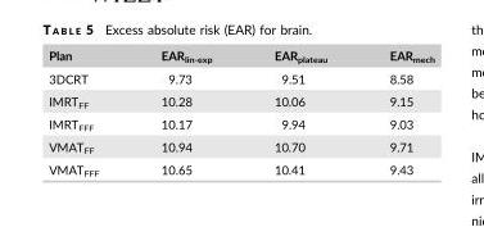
<table><thead><tr><td>Plan</td><td>EAR<sub>lin-exp</sub></td><td>EAR<sub>plateau</sub></td><td>EAR<sub>mech</sub></td></tr></thead><tbody><tr><td>3DCRT</td><td>9.73</td><td>9.51</td><td>8.58</td></tr><tr><td>IMRT<sub>FF</sub></td><td>10.28</td><td>10.06</td><td>9.15</td></tr><tr><td>IMRT<sub>FFF</sub></td><td>10.17</td><td>9.94</td><td>9.03</td></tr><tr><td>VMAT<sub>FF</sub></td><td>10.94</td><td>10.70</td><td>9.71</td></tr><tr><td>VMAT<sub>FFF</sub></td><td>10.65</td><td>10.41</td><td>9.43</td></tr></tbody></table>